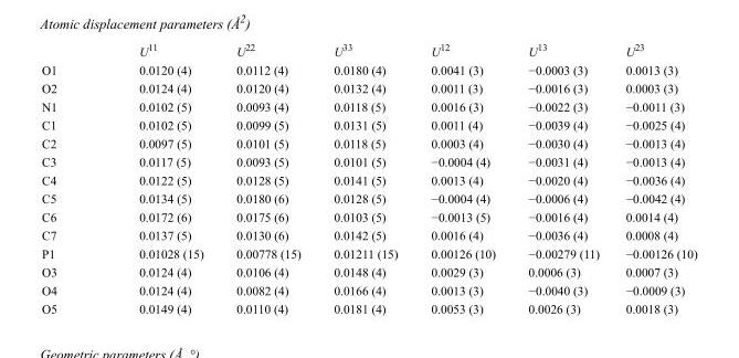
<table><thead><tr><td></td><td>U<sup>11</sup></td><td>U<sup>22</sup></td><td>U<sup>33</sup></td><td>U<sup>12</sup></td><td>U<sup>13</sup></td><td>U<sup>23</sup></td></tr></thead><tbody><tr><td>O1</td><td>0.0120 (4)</td><td>0.0112 (4)</td><td>0.0180 (4)</td><td>0.0041 (3)</td><td>−0.0003 (3)</td><td>0.0013 (3)</td></tr><tr><td>O2</td><td>0.0124 (4)</td><td>0.0120 (4)</td><td>0.0132 (4)</td><td>0.0011 (3)</td><td>−0.0016 (3)</td><td>0.0003 (3)</td></tr><tr><td>N1</td><td>0.0102 (5)</td><td>0.0093 (4)</td><td>0.0118 (5)</td><td>0.0016 (3)</td><td>−0.0022 (3)</td><td>−0.0011 (3)</td></tr><tr><td>C1</td><td>0.0102 (5)</td><td>0.0099 (5)</td><td>0.0131 (5)</td><td>0.0011 (4)</td><td>−0.0039 (4)</td><td>−0.0025 (4)</td></tr><tr><td>C2</td><td>0.0097 (5)</td><td>0.0101 (5)</td><td>0.0118 (5)</td><td>0.0003 (4)</td><td>−0.0030 (4)</td><td>−0.0013 (4)</td></tr><tr><td>C3</td><td>0.0117 (5)</td><td>0.0093 (5)</td><td>0.0101 (5)</td><td>−0.0004 (4)</td><td>−0.0031 (4)</td><td>−0.0013 (4)</td></tr><tr><td>C4</td><td>0.0122 (5)</td><td>0.0128 (5)</td><td>0.0141 (5)</td><td>0.0013 (4)</td><td>−0.0020 (4)</td><td>−0.0036 (4)</td></tr><tr><td>C5</td><td>0.0134 (5)</td><td>0.0180 (6)</td><td>0.0128 (5)</td><td>−0.0004 (4)</td><td>−0.0006 (4)</td><td>−0.0042 (4)</td></tr><tr><td>C6</td><td>0.0172 (6)</td><td>0.0175 (6)</td><td>0.0103 (5)</td><td>−0.0013 (5)</td><td>−0.0016 (4)</td><td>0.0014 (4)</td></tr><tr><td>C7</td><td>0.0137 (5)</td><td>0.0130 (6)</td><td>0.0142 (5)</td><td>0.0016 (4)</td><td>−0.0036 (4)</td><td>0.0008 (4)</td></tr><tr><td>P1</td><td>0.01028 (15)</td><td>0.00778 (15)</td><td>0.01211 (15)</td><td>0.00126 (10)</td><td>−0.00279 (11)</td><td>−0.00126 (10)</td></tr><tr><td>O3</td><td>0.0124 (4)</td><td>0.0106 (4)</td><td>0.0148 (4)</td><td>0.0029 (3)</td><td>0.0006 (3)</td><td>0.0007 (3)</td></tr><tr><td>O4</td><td>0.0124 (4)</td><td>0.0082 (4)</td><td>0.0166 (4)</td><td>0.0013 (3)</td><td>−0.0040 (3)</td><td>−0.0009 (3)</td></tr><tr><td>O5</td><td>0.0149 (4)</td><td>0.0110 (4)</td><td>0.0181 (4)</td><td>0.0053 (3)</td><td>0.0026 (3)</td><td>0.0018 (3)</td></tr></tbody></table>